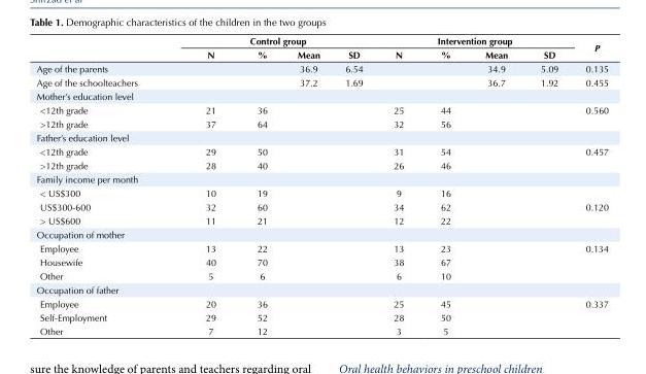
<table><thead><tr><td rowspan="2"></td><td colspan="4">Control group</td><td colspan="4">Intervention group</td><td rowspan="2">P</td></tr><tr><td>N</td><td>%</td><td>Mean</td><td>SD</td><td>N</td><td>%</td><td>Mean</td><td>SD</td></tr></thead><tbody><tr><td>Age of the parents</td><td></td><td></td><td>36.9</td><td>6.54</td><td></td><td></td><td>34.9</td><td>5.09</td><td>0.135</td></tr><tr><td>Age of the schoolteachers</td><td></td><td></td><td>37.2</td><td>1.69</td><td></td><td></td><td>36.7</td><td>1.92</td><td>0.455</td></tr><tr><td colspan="10">Mother’s education level</td></tr><tr><td>&lt;12th grade</td><td>21</td><td>36</td><td></td><td></td><td>25</td><td>44</td><td></td><td></td><td>0.560</td></tr><tr><td>&gt;12th grade</td><td>37</td><td>64</td><td></td><td></td><td>32</td><td>56</td><td></td><td></td><td></td></tr><tr><td colspan="10">Father’s education level</td></tr><tr><td>&lt;12th grade</td><td>29</td><td>50</td><td></td><td></td><td>31</td><td>54</td><td></td><td></td><td>0.457</td></tr><tr><td>&gt;12th grade</td><td>28</td><td>40</td><td></td><td></td><td>26</td><td>46</td><td></td><td></td><td></td></tr><tr><td colspan="10">Family income per month</td></tr><tr><td>&lt; US$300</td><td>10</td><td>19</td><td></td><td></td><td>9</td><td>16</td><td></td><td></td><td></td></tr><tr><td>US$300-600</td><td>32</td><td>60</td><td></td><td></td><td>34</td><td>62</td><td></td><td></td><td>0.120</td></tr><tr><td>&gt; US$600</td><td>11</td><td>21</td><td></td><td></td><td>12</td><td>22</td><td></td><td></td><td></td></tr><tr><td colspan="10">Occupation of mother</td></tr><tr><td>Employee</td><td>13</td><td>22</td><td></td><td></td><td>13</td><td>23</td><td></td><td></td><td>0.134</td></tr><tr><td>Housewife</td><td>40</td><td>70</td><td></td><td></td><td>38</td><td>67</td><td></td><td></td><td></td></tr><tr><td>Other</td><td>5</td><td>6</td><td></td><td></td><td>6</td><td>10</td><td></td><td></td><td></td></tr><tr><td colspan="10">Occupation of father</td></tr><tr><td>Employee</td><td>20</td><td>36</td><td></td><td></td><td>25</td><td>45</td><td></td><td></td><td>0.337</td></tr><tr><td>Self-Employment</td><td>29</td><td>52</td><td></td><td></td><td>28</td><td>50</td><td></td><td></td><td></td></tr><tr><td>Other</td><td>7</td><td>12</td><td></td><td></td><td>3</td><td>5</td><td></td><td></td><td></td></tr></tbody></table>